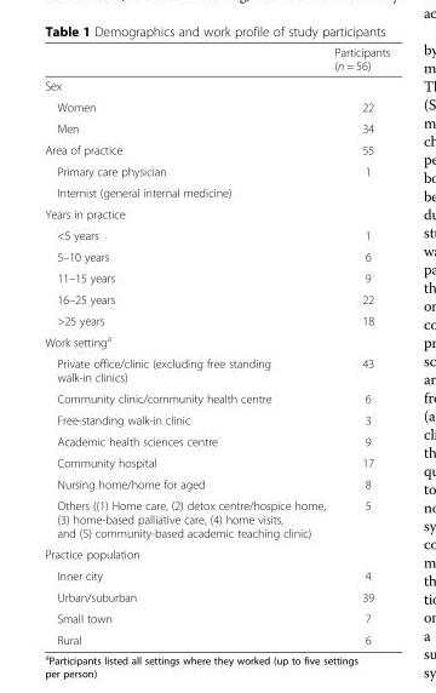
<table><thead><tr><td></td><td>Participants (n = 56)</td></tr></thead><tbody><tr><td colspan="2">Sex</td></tr><tr><td>Women</td><td>22</td></tr><tr><td>Men</td><td>34</td></tr><tr><td>Area of practice</td><td>55</td></tr><tr><td>Primary care physician</td><td>1</td></tr><tr><td colspan="2">Internist (general internal medicine)</td></tr><tr><td colspan="2">Years in practice</td></tr><tr><td>&lt;5 years</td><td>1</td></tr><tr><td>5–10 years</td><td>6</td></tr><tr><td>11–15 years</td><td>9</td></tr><tr><td>16–25 years</td><td>22</td></tr><tr><td>&gt;25 years</td><td>18</td></tr><tr><td colspan="2">Work setting<sup>a</sup></td></tr><tr><td>Private office/clinic (excluding free standing walk-in clinics)</td><td>43</td></tr><tr><td>Community clinic/community health centre</td><td>6</td></tr><tr><td>Free-standing walk-in clinic</td><td>3</td></tr><tr><td>Academic health sciences centre</td><td>9</td></tr><tr><td>Community hospital</td><td>17</td></tr><tr><td>Nursing home/home for aged</td><td>8</td></tr><tr><td>Others ((1) Home care, (2) detox centre/hospice home, (3) home-based palliative care, (4) home visits, and (5) community-based academic teaching clinic)</td><td>5</td></tr><tr><td colspan="2">Practice population</td></tr><tr><td>Inner city</td><td>4</td></tr><tr><td>Urban/suburban</td><td>39</td></tr><tr><td>Small town</td><td>7</td></tr><tr><td>Rural</td><td>6</td></tr></tbody></table>